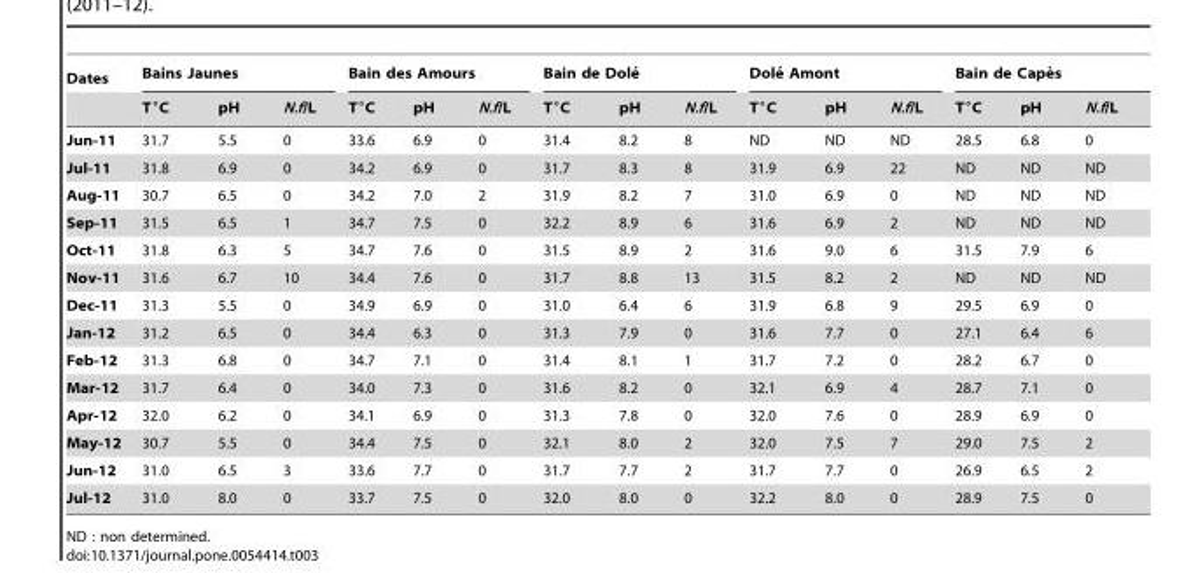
<table><thead><tr><td rowspan="2">Dates</td><td colspan="3">Bains Jaunes</td><td colspan="3">Bain des Amours</td><td colspan="3">Bain de Dole´</td><td colspan="3">Dole´ Amont</td><td colspan="3">Bain de Cape`s</td></tr><tr><td>T°C</td><td>pH</td><td>N.f/L</td><td>T°C</td><td>pH</td><td>N.f/L</td><td>T°C</td><td>pH</td><td>N.f/L</td><td>T°C</td><td>pH</td><td>N.f/L</td><td>T°C</td><td>pH</td><td>N.f/L</td></tr></thead><tbody><tr><td>Jun-11</td><td>31.7</td><td>5.5</td><td>0</td><td>33.6</td><td>6.9</td><td>0</td><td>31.4</td><td>8.2</td><td>8</td><td>ND</td><td>ND</td><td>ND</td><td>28.5</td><td>6.8</td><td>0</td></tr><tr><td>Jul-11</td><td>31.8</td><td>6.9</td><td>0</td><td>34.2</td><td>6.9</td><td>0</td><td>31.7</td><td>8.3</td><td>8</td><td>31.9</td><td>6.9</td><td>22</td><td>ND</td><td>ND</td><td>ND</td></tr><tr><td>Aug-11</td><td>30.7</td><td>6.5</td><td>0</td><td>34.2</td><td>7.0</td><td>2</td><td>31.9</td><td>8.2</td><td>7</td><td>31.0</td><td>6.9</td><td>0</td><td>ND</td><td>ND</td><td>ND</td></tr><tr><td>Sep-11</td><td>31.5</td><td>6.5</td><td>1</td><td>34.7</td><td>7.5</td><td>0</td><td>32.2</td><td>8.9</td><td>6</td><td>31.6</td><td>6.9</td><td>2</td><td>ND</td><td>ND</td><td>ND</td></tr><tr><td>Oct-11</td><td>31.8</td><td>6.3</td><td>5</td><td>34.7</td><td>7.6</td><td>0</td><td>31.5</td><td>8.9</td><td>2</td><td>31.6</td><td>9.0</td><td>6</td><td>31.5</td><td>7.9</td><td>6</td></tr><tr><td>Nov-11</td><td>31.6</td><td>6.7</td><td>10</td><td>34.4</td><td>7.6</td><td>0</td><td>31.7</td><td>8.8</td><td>13</td><td>31.5</td><td>8.2</td><td>2</td><td>ND</td><td>ND</td><td>ND</td></tr><tr><td>Dec-11</td><td>31.3</td><td>5.5</td><td>0</td><td>34.9</td><td>6.9</td><td>0</td><td>31.0</td><td>6.4</td><td>6</td><td>31.9</td><td>6.8</td><td>9</td><td>29.5</td><td>6.9</td><td>0</td></tr><tr><td>Jan-12</td><td>31.2</td><td>6.5</td><td>0</td><td>34.4</td><td>6.3</td><td>0</td><td>31.3</td><td>7.9</td><td>0</td><td>31.6</td><td>7.7</td><td>0</td><td>27.1</td><td>6.4</td><td>6</td></tr><tr><td>Feb-12</td><td>31.3</td><td>6.8</td><td>0</td><td>34.7</td><td>7.1</td><td>0</td><td>31.4</td><td>8.1</td><td>1</td><td>31.7</td><td>7.2</td><td>0</td><td>28.2</td><td>6.7</td><td>0</td></tr><tr><td>Mar-12</td><td>31.7</td><td>6.4</td><td>0</td><td>34.0</td><td>7.3</td><td>0</td><td>31.6</td><td>8.2</td><td>0</td><td>32.1</td><td>6.9</td><td>4</td><td>28.7</td><td>7.1</td><td>0</td></tr><tr><td>Apr-12</td><td>32.0</td><td>6.2</td><td>0</td><td>34.1</td><td>6.9</td><td>0</td><td>31.3</td><td>7.8</td><td>0</td><td>32.0</td><td>7.6</td><td>0</td><td>28.9</td><td>6.9</td><td>0</td></tr><tr><td>May-12</td><td>30.7</td><td>5.5</td><td>0</td><td>34.4</td><td>7.5</td><td>0</td><td>32.1</td><td>8.0</td><td>2</td><td>32.0</td><td>7.5</td><td>7</td><td>29.0</td><td>7.5</td><td>2</td></tr><tr><td>Jun-12</td><td>31.0</td><td>6.5</td><td>3</td><td>33.6</td><td>7.7</td><td>0</td><td>31.7</td><td>7.7</td><td>2</td><td>31.7</td><td>7.7</td><td>0</td><td>26.9</td><td>6.5</td><td>2</td></tr><tr><td>Jul-12</td><td>31.0</td><td>8.0</td><td>0</td><td>33.7</td><td>7.5</td><td>0</td><td>32.0</td><td>8.0</td><td>0</td><td>32.2</td><td>8.0</td><td>0</td><td>28.9</td><td>7.5</td><td>0</td></tr></tbody></table>